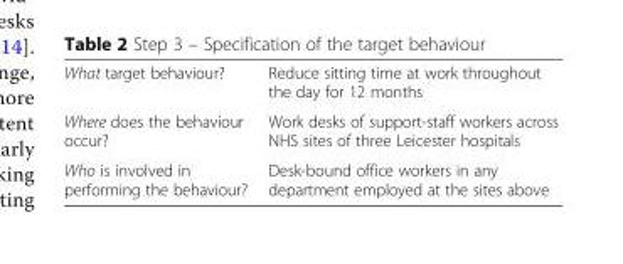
<table><tbody><tr><td>What target behaviour?</td><td>Reduce sitting time at work throughout the day for 12 months</td></tr><tr><td>Where does the behaviour occur?</td><td>Work desks of support-staff workers across NHS sites of three Leicester hospitals</td></tr><tr><td>Who is involved in performing the behaviour?</td><td>Desk-bound office workers in any department employed at the sites above</td></tr></tbody></table>